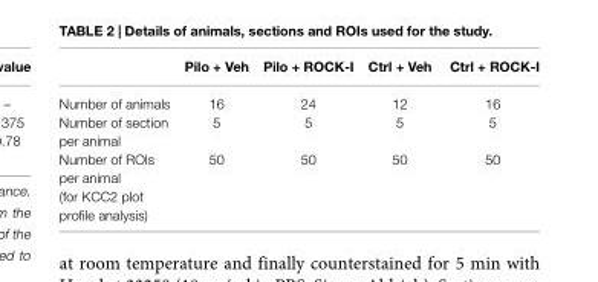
<table><thead><tr><td></td><td>Pilo + Veh</td><td>Pilo + ROCK-I</td><td>Ctrl + Veh</td><td>Ctrl + ROCK-I</td></tr></thead><tbody><tr><td>Number of animals</td><td>16</td><td>24</td><td>12</td><td>16</td></tr><tr><td>Number of section per animal</td><td>5</td><td>5</td><td>5</td><td>5</td></tr><tr><td>Number of ROIs per animal (for KCC2 plot profile analysis)</td><td>50</td><td>50</td><td>50</td><td>50</td></tr></tbody></table>